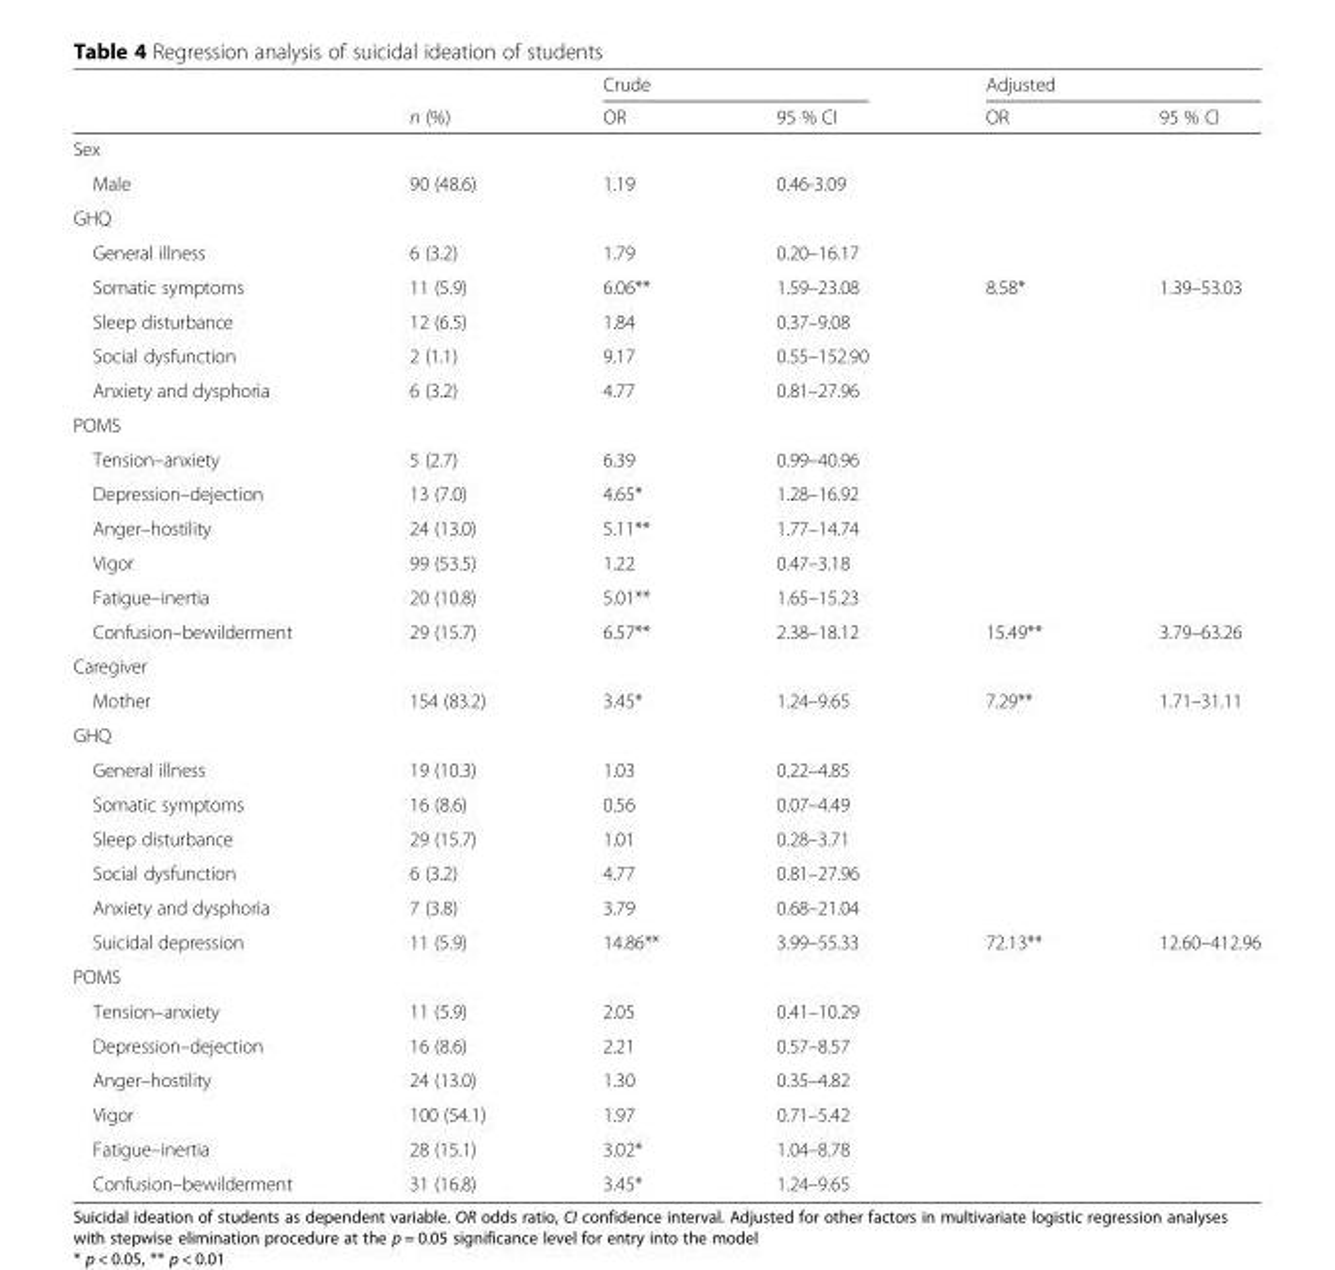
<table><thead><tr><td rowspan="2"></td><td rowspan="2">n (%)</td><td colspan="2">Crude</td><td colspan="2">Adjusted</td></tr><tr><td>OR</td><td>95 % CI</td><td>OR</td><td>95 % CI</td></tr></thead><tbody><tr><td colspan="6">Sex</td></tr><tr><td>Male</td><td>90 (48.6)</td><td>1.19</td><td>0.46-3.09</td><td></td><td></td></tr><tr><td colspan="6">GHQ</td></tr><tr><td>General illness</td><td>6 (3.2)</td><td>1.79</td><td>0.20–16.17</td><td></td><td></td></tr><tr><td>Somatic symptoms</td><td>11 (5.9)</td><td>6.06**</td><td>1.59–23.08</td><td>8.58*</td><td>1.39–53.03</td></tr><tr><td>Sleep disturbance</td><td>12 (6.5)</td><td>1.84</td><td>0.37–9.08</td><td></td><td></td></tr><tr><td>Social dysfunction</td><td>2 (1.1)</td><td>9.17</td><td>0.55–152.90</td><td></td><td></td></tr><tr><td>Anxiety and dysphoria</td><td>6 (3.2)</td><td>4.77</td><td>0.81–27.96</td><td></td><td></td></tr><tr><td colspan="6">POMS</td></tr><tr><td>Tension–anxiety</td><td>5 (2.7)</td><td>6.39</td><td>0.99–40.96</td><td></td><td></td></tr><tr><td>Depression–dejection</td><td>13 (7.0)</td><td>4.65*</td><td>1.28–16.92</td><td></td><td></td></tr><tr><td>Anger–hostility</td><td>24 (13.0)</td><td>5.11**</td><td>1.77–14.74</td><td></td><td></td></tr><tr><td>Vigor</td><td>99 (53.5)</td><td>1.22</td><td>0.47–3.18</td><td></td><td></td></tr><tr><td>Fatigue–inertia</td><td>20 (10.8)</td><td>5.01**</td><td>1.65–15.23</td><td></td><td></td></tr><tr><td>Confusion–bewilderment</td><td>29 (15.7)</td><td>6.57**</td><td>2.38–18.12</td><td>15.49**</td><td>3.79–63.26</td></tr><tr><td colspan="6">Caregiver</td></tr><tr><td>Mother</td><td>154 (83.2)</td><td>3.45*</td><td>1.24–9.65</td><td>7.29**</td><td>1.71–31.11</td></tr><tr><td colspan="6">GHQ</td></tr><tr><td>General illness</td><td>19 (10.3)</td><td>1.03</td><td>0.22–4.85</td><td></td><td></td></tr><tr><td>Somatic symptoms</td><td>16 (8.6)</td><td>0.56</td><td>0.07–4.49</td><td></td><td></td></tr><tr><td>Sleep disturbance</td><td>29 (15.7)</td><td>1.01</td><td>0.28–3.71</td><td></td><td></td></tr><tr><td>Social dysfunction</td><td>6 (3.2)</td><td>4.77</td><td>0.81–27.96</td><td></td><td></td></tr><tr><td>Anxiety and dysphoria</td><td>7 (3.8)</td><td>3.79</td><td>0.68–21.04</td><td></td><td></td></tr><tr><td>Suicidal depression</td><td>11 (5.9)</td><td>14.86**</td><td>3.99–55.33</td><td>72.13**</td><td>12.60–412.96</td></tr><tr><td colspan="6">POMS</td></tr><tr><td>Tension–anxiety</td><td>11 (5.9)</td><td>2.05</td><td>0.41–10.29</td><td></td><td></td></tr><tr><td>Depression–dejection</td><td>16 (8.6)</td><td>2.21</td><td>0.57–8.57</td><td></td><td></td></tr><tr><td>Anger–hostility</td><td>24 (13.0)</td><td>1.30</td><td>0.35–4.82</td><td></td><td></td></tr><tr><td>Vigor</td><td>100 (54.1)</td><td>1.97</td><td>0.71–5.42</td><td></td><td></td></tr><tr><td>Fatigue–inertia</td><td>28 (15.1)</td><td>3.02*</td><td>1.04–8.78</td><td></td><td></td></tr><tr><td>Confusion–bewilderment</td><td>31 (16.8)</td><td>3.45*</td><td>1.24–9.65</td><td></td><td></td></tr></tbody></table>